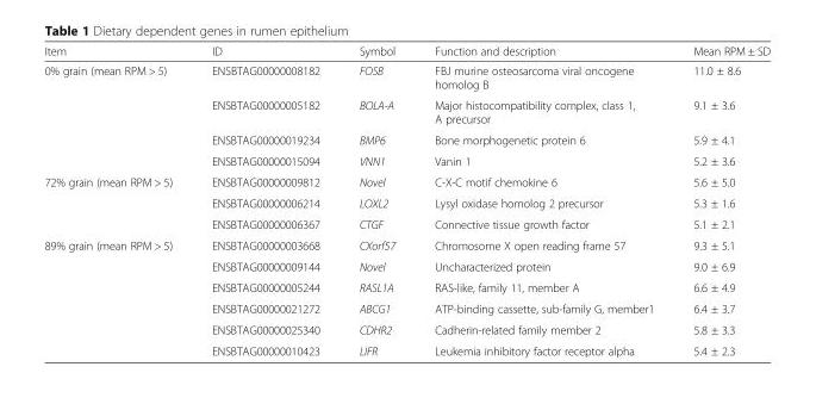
<table><thead><tr><td>Item</td><td>ID</td><td>Symbol</td><td>Function and description</td><td>Mean RPM ± SD</td></tr></thead><tbody><tr><td rowspan="4">0% grain (mean RPM &gt; 5)</td><td>ENSBTAG00000008182</td><td>FOSB</td><td>FBJ murine osteosarcoma viral oncogene homolog B</td><td>11.0 ± 8.6</td></tr><tr><td>ENSBTAG00000005182</td><td>BOLA-A</td><td>Major histocompatibility complex, class 1, A precursor</td><td>9.1 ± 3.6</td></tr><tr><td>ENSBTAG00000019234</td><td>BMP6</td><td>Bone morphogenetic protein 6</td><td>5.9 ± 4.1</td></tr><tr><td>ENSBTAG00000015094</td><td>VNN1</td><td>Vanin 1</td><td>5.2 ± 3.6</td></tr><tr><td rowspan="3">72% grain (mean RPM &gt; 5)</td><td>ENSBTAG00000009812</td><td>Novel</td><td>C-X-C motif chemokine 6</td><td>5.6 ± 5.0</td></tr><tr><td>ENSBTAG00000006214</td><td>LOXL2</td><td>Lysyl oxidase homolog 2 precursor</td><td>5.3 ± 1.6</td></tr><tr><td>ENSBTAG00000006367</td><td>CTGF</td><td>Connective tissue growth factor</td><td>5.1 ± 2.1</td></tr><tr><td rowspan="6">89% grain (mean RPM &gt; 5)</td><td>ENSBTAG00000003668</td><td>CXorf57</td><td>Chromosome X open reading frame 57</td><td>9.3 ± 5.1</td></tr><tr><td>ENSBTAG00000009144</td><td>Novel</td><td>Uncharacterized protein</td><td>9.0 ± 6.9</td></tr><tr><td>ENSBTAG00000005244</td><td>RASL1A</td><td>RAS-like, family 11, member A</td><td>6.6 ± 4.9</td></tr><tr><td>ENSBTAG00000021272</td><td>ABCG1</td><td>ATP-binding cassette, sub-family G, member1</td><td>6.4 ± 3.7</td></tr><tr><td>ENSBTAG00000025340</td><td>CDHR2</td><td>Cadherin-related family member 2</td><td>5.8 ± 3.3</td></tr><tr><td>ENSBTAG00000010423</td><td>LIFR</td><td>Leukemia inhibitory factor receptor alpha</td><td>5.4 ± 2.3</td></tr></tbody></table>